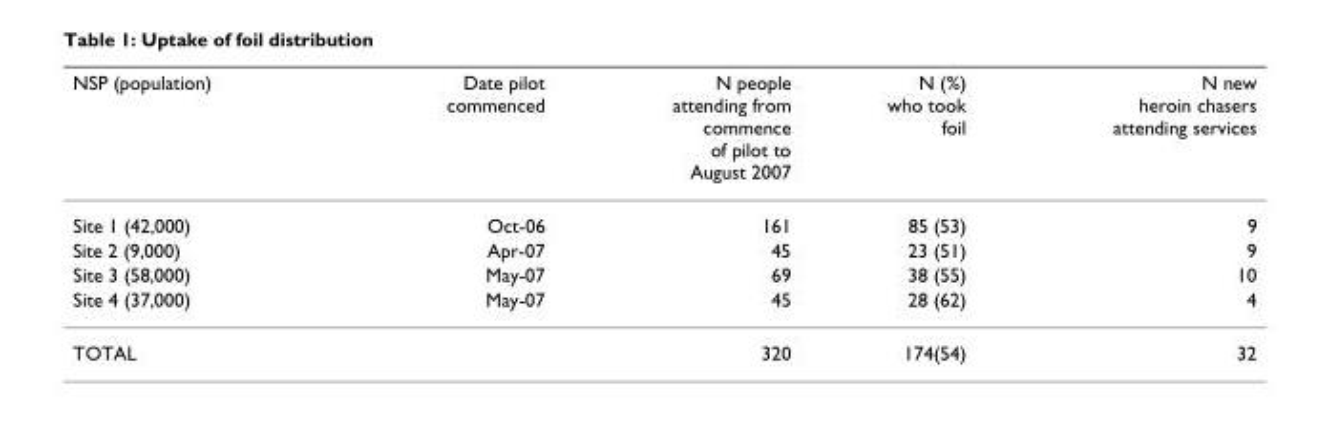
<table><thead><tr><td>NSP (population)</td><td>Date pilot commenced</td><td>N people attending from commence of pilot to August 2007</td><td>N (%) who took foil</td><td>N new heroin chasers attending services</td></tr></thead><tbody><tr><td>Site 1 (42,000)</td><td>Oct-06</td><td>161</td><td>85 (53)</td><td>9</td></tr><tr><td>Site 2 (9,000)</td><td>Apr-07</td><td>45</td><td>23 (51)</td><td>9</td></tr><tr><td>Site 3 (58,000)</td><td>May-07</td><td>69</td><td>38 (55)</td><td>10</td></tr><tr><td>Site 4 (37,000)</td><td>May-07</td><td>45</td><td>28 (62)</td><td>4</td></tr><tr><td>TOTAL</td><td></td><td>320</td><td>174(54)</td><td>32</td></tr></tbody></table>